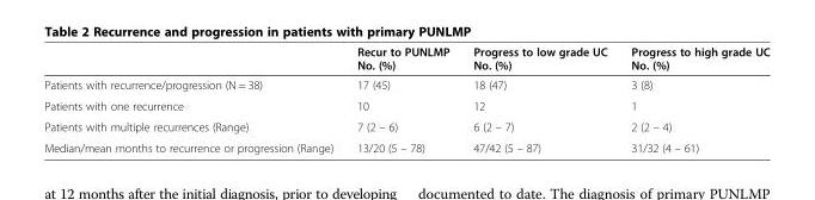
<table><thead><tr><td></td><td>Recur to PUNLMP No. (%)</td><td>Progress to low grade UC No. (%)</td><td>Progress to high grade UC No. (%)</td></tr></thead><tbody><tr><td>Patients with recurrence/progression (N = 38)</td><td>17 (45)</td><td>18 (47)</td><td>3 (8)</td></tr><tr><td>Patients with one recurrence</td><td>10</td><td>12</td><td>1</td></tr><tr><td>Patients with multiple recurrences (Range)</td><td>7 (2 – 6)</td><td>6 (2 – 7)</td><td>2 (2 – 4)</td></tr><tr><td>Median/mean months to recurrence or progression (Range)</td><td>13/20 (5 – 78)</td><td>47/42 (5 – 87)</td><td>31/32 (4 – 61)</td></tr></tbody></table>